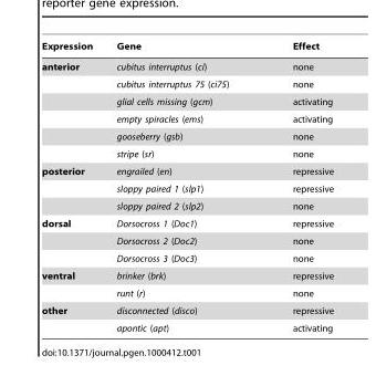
<table><thead><tr><td>Expression</td><td>Gene</td><td>Effect</td></tr></thead><tbody><tr><td rowspan="6">anterior</td><td>cubitus interruptus (ci)</td><td>none</td></tr><tr><td>cubitus interruptus 75 (ci75)</td><td>none</td></tr><tr><td>glial cells missing (gcm)</td><td>activating</td></tr><tr><td>empty spiracles (ems)</td><td>activating</td></tr><tr><td>gooseberry (gsb)</td><td>none</td></tr><tr><td>stripe (sr)</td><td>none</td></tr><tr><td rowspan="3">posterior</td><td>engrailed (en)</td><td>repressive</td></tr><tr><td>sloppy paired 1 (slp1)</td><td>repressive</td></tr><tr><td>sloppy paired 2 (slp2)</td><td>none</td></tr><tr><td rowspan="3">dorsal</td><td>Dorsocross 1 (Doc1)</td><td>repressive</td></tr><tr><td>Dorsocross 2 (Doc2)</td><td>none</td></tr><tr><td>Dorsocross 3 (Doc3)</td><td>none</td></tr><tr><td rowspan="2">ventral</td><td>brinker (brk)</td><td>repressive</td></tr><tr><td>runt (r)</td><td>none</td></tr><tr><td rowspan="2">other</td><td>disconnected (disco)</td><td>repressive</td></tr><tr><td>apontic (apt)</td><td>activating</td></tr></tbody></table>